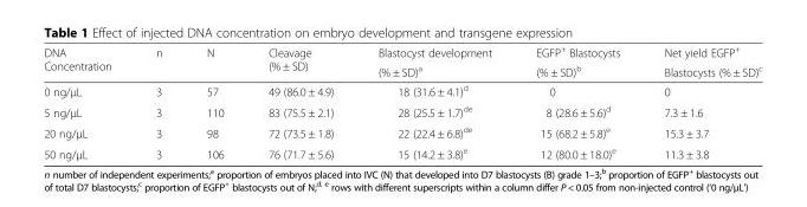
<table><thead><tr><td rowspan="2">DNA Concentration</td><td rowspan="2">n</td><td rowspan="2">N</td><td rowspan="2">Cleavage (% ± SD)</td><td rowspan="2">Blastocyst development (% ± SD)<sup>a</sup></td><td rowspan="2">EGFP<sup>+</sup> Blastocysts (% ± SD)<sup>b</sup></td><td rowspan="2">Net yield EGFP<sup>+</sup> Blastocysts (% ± SD)<sup>c</sup></td></tr><tr></tr></thead><tbody><tr><td>0 ng/μL</td><td>3</td><td>57</td><td>49 (86.0 ± 4.9)</td><td>18 (31.6 ± 4.1)<sup>d</sup></td><td>0</td><td>0</td></tr><tr><td>5 ng/μL</td><td>3</td><td>110</td><td>83 (75.5 ± 2.1)</td><td>28 (25.5 ± 1.7)<sup>de</sup></td><td>8 (28.6 ± 5.6)<sup>d</sup></td><td>7.3 ± 1.6</td></tr><tr><td>20 ng/μL</td><td>3</td><td>98</td><td>72 (73.5 ± 1.8)</td><td>22 (22.4 ± 6.8)<sup>de</sup></td><td>15 (68.2 ± 5.8)<sup>e</sup></td><td>15.3 ± 3.7</td></tr><tr><td>50 ng/μL</td><td>3</td><td>106</td><td>76 (71.7 ± 5.6)</td><td>15 (14.2 ± 3.8)<sup>e</sup></td><td>12 (80.0 ± 18.0)<sup>e</sup></td><td>11.3 ± 3.8</td></tr></tbody></table>